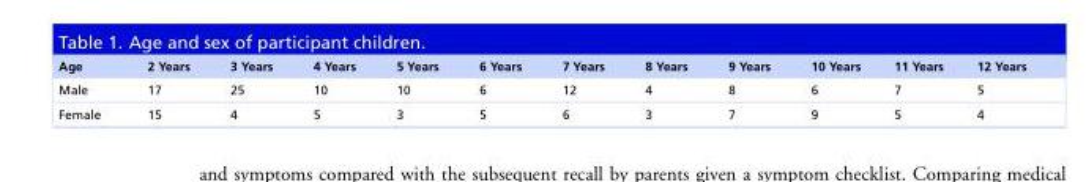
<table><thead><tr><td>Age</td><td>2 Years</td><td>3 Years</td><td>4 Years</td><td>5 Years</td><td>6 Years</td><td>7 Years</td><td>8 Years</td><td>9 Years</td><td>10 Years</td><td>11 Years</td><td>12 Years</td></tr></thead><tbody><tr><td>Male</td><td>17</td><td>25</td><td>10</td><td>10</td><td>6</td><td>12</td><td>4</td><td>8</td><td>6</td><td>7</td><td>5</td></tr><tr><td>Female</td><td>15</td><td>4</td><td>5</td><td>3</td><td>5</td><td>6</td><td>3</td><td>7</td><td>9</td><td>5</td><td>4</td></tr></tbody></table>